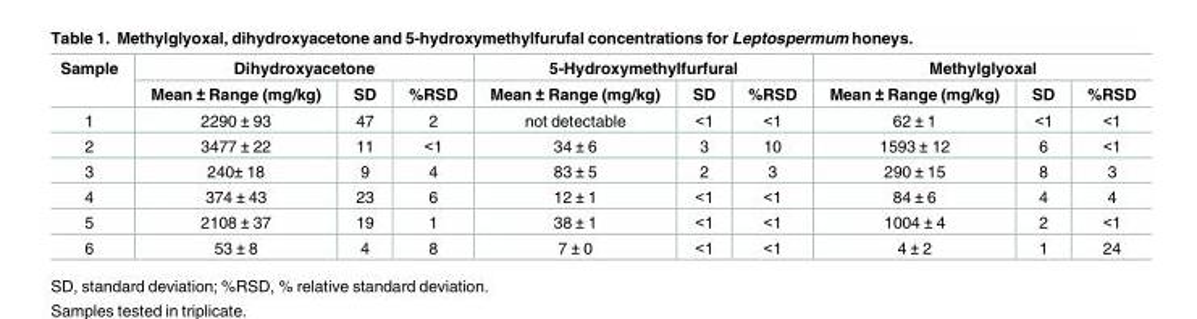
<table><thead><tr><td rowspan="2">Sample</td><td colspan="3">Dihydroxyacetone</td><td colspan="3">5-Hydroxymethylfurfural</td><td colspan="3">Methylglyoxal</td></tr><tr><td>Mean ± Range (mg/kg)</td><td>SD</td><td>%RSD</td><td>Mean ± Range (mg/kg)</td><td>SD</td><td>%RSD</td><td>Mean ± Range (mg/kg)</td><td>SD</td><td>%RSD</td></tr></thead><tbody><tr><td>1</td><td>2290 ± 93</td><td>47</td><td>2</td><td>not detectable</td><td>&lt;1</td><td>&lt;1</td><td>62 ± 1</td><td>&lt;1</td><td>&lt;1</td></tr><tr><td>2</td><td>3477 ± 22</td><td>11</td><td>&lt;1</td><td>34 ± 6</td><td>3</td><td>10</td><td>1593 ± 12</td><td>6</td><td>&lt;1</td></tr><tr><td>3</td><td>240± 18</td><td>9</td><td>4</td><td>83 ± 5</td><td>2</td><td>3</td><td>290 ± 15</td><td>8</td><td>3</td></tr><tr><td>4</td><td>374 ± 43</td><td>23</td><td>6</td><td>12 ± 1</td><td>&lt;1</td><td>&lt;1</td><td>84 ± 6</td><td>4</td><td>4</td></tr><tr><td>5</td><td>2108 ± 37</td><td>19</td><td>1</td><td>38 ± 1</td><td>&lt;1</td><td>&lt;1</td><td>1004 ± 4</td><td>2</td><td>&lt;1</td></tr><tr><td>6</td><td>53 ± 8</td><td>4</td><td>8</td><td>7 ± 0</td><td>&lt;1</td><td>&lt;1</td><td>4 ± 2</td><td>1</td><td>24</td></tr></tbody></table>